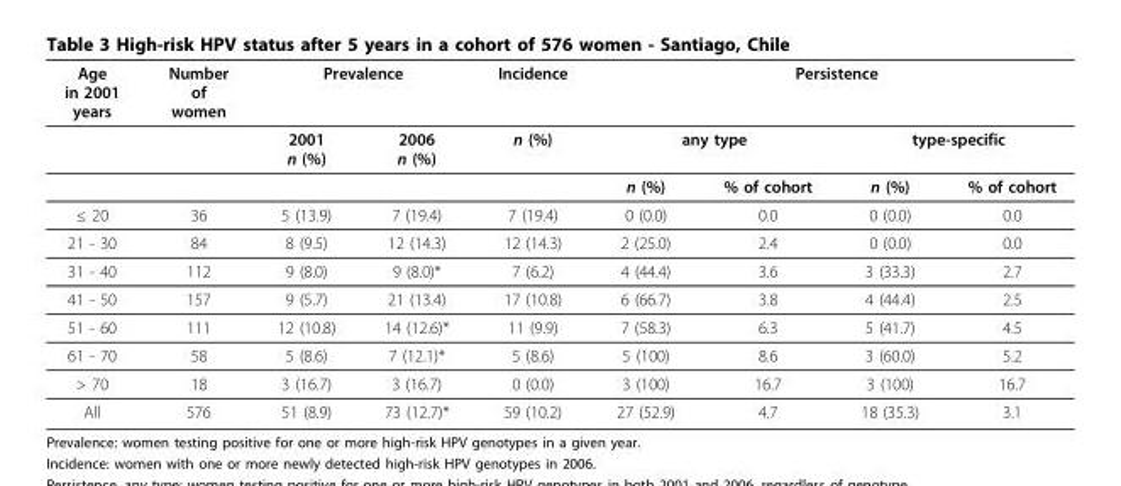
<table><thead><tr><td rowspan="3">Age in 2001 years</td><td rowspan="3">Number of women</td><td colspan="2">Prevalence</td><td rowspan="3">Incidence n (%)</td><td colspan="4">Persistence</td></tr><tr><td rowspan="2">2001 n (%)</td><td rowspan="2">2006 n (%)</td><td colspan="2">any type</td><td colspan="2">type-specific</td></tr><tr><td>n (%)</td><td>% of cohort</td><td>n (%)</td><td>% of cohort</td></tr></thead><tbody><tr><td>≤ 20</td><td>36</td><td>5 (13.9)</td><td>7 (19.4)</td><td>7 (19.4)</td><td>0 (0.0)</td><td>0.0</td><td>0 (0.0)</td><td>0.0</td></tr><tr><td>21 - 30</td><td>84</td><td>8 (9.5)</td><td>12 (14.3)</td><td>12 (14.3)</td><td>2 (25.0)</td><td>2.4</td><td>0 (0.0)</td><td>0.0</td></tr><tr><td>31 - 40</td><td>112</td><td>9 (8.0)</td><td>9 (8.0)*</td><td>7 (6.2)</td><td>4 (44.4)</td><td>3.6</td><td>3 (33.3)</td><td>2.7</td></tr><tr><td>41 - 50</td><td>157</td><td>9 (5.7)</td><td>21 (13.4)</td><td>17 (10.8)</td><td>6 (66.7)</td><td>3.8</td><td>4 (44.4)</td><td>2.5</td></tr><tr><td>51 - 60</td><td>111</td><td>12 (10.8)</td><td>14 (12.6)*</td><td>11 (9.9)</td><td>7 (58.3)</td><td>6.3</td><td>5 (41.7)</td><td>4.5</td></tr><tr><td>61 - 70</td><td>58</td><td>5 (8.6)</td><td>7 (12.1)*</td><td>5 (8.6)</td><td>5 (100)</td><td>8.6</td><td>3 (60.0)</td><td>5.2</td></tr><tr><td>&gt; 70</td><td>18</td><td>3 (16.7)</td><td>3 (16.7)</td><td>0 (0.0)</td><td>3 (100)</td><td>16.7</td><td>3 (100)</td><td>16.7</td></tr><tr><td>All</td><td>576</td><td>51 (8.9)</td><td>73 (12.7)*</td><td>59 (10.2)</td><td>27 (52.9)</td><td>4.7</td><td>18 (35.3)</td><td>3.1</td></tr></tbody></table>